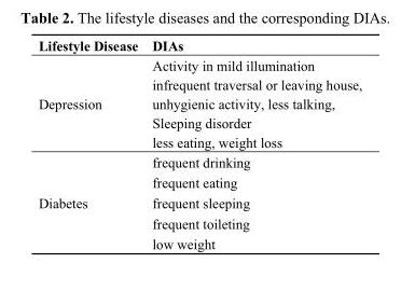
<table><thead><tr><td>Lifestyle Disease</td><td>DIAs</td></tr></thead><tbody><tr><td rowspan="4">Depression</td><td>Activity in mild illumination</td></tr><tr><td>infrequent traversal or leaving house, unhygienic activity, less talking,</td></tr><tr><td>Sleeping disorder</td></tr><tr><td>less eating, weight loss</td></tr><tr><td rowspan="5">Diabetes</td><td>frequent drinking</td></tr><tr><td>frequent eating</td></tr><tr><td>frequent sleeping</td></tr><tr><td>frequent toileting</td></tr><tr><td>low weight</td></tr></tbody></table>